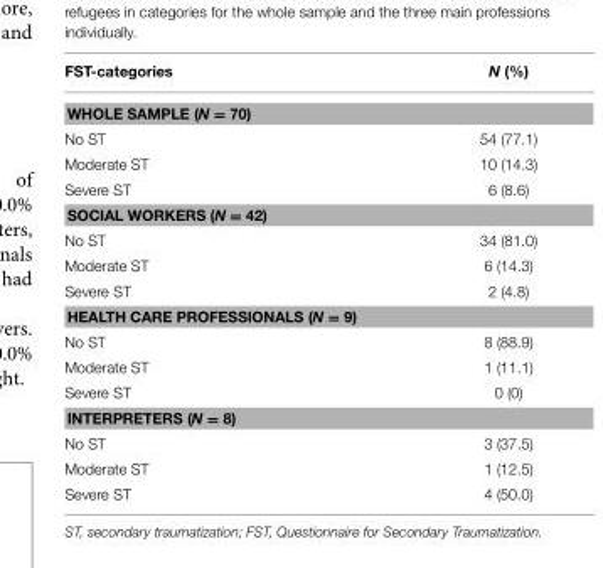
<table><thead><tr><td>FST-categories</td><td>N (%)</td></tr></thead><tbody><tr><td colspan="2">WHOLE SAMPLE (N = 70)</td></tr><tr><td>No ST</td><td>54 (77.1)</td></tr><tr><td>Moderate ST</td><td>10 (14.3)</td></tr><tr><td>Severe ST</td><td>6 (8.6)</td></tr><tr><td colspan="2">SOCIAL WORKERS (N = 42)</td></tr><tr><td>No ST</td><td>34 (81.0)</td></tr><tr><td>Moderate ST</td><td>6 (14.3)</td></tr><tr><td>Severe ST</td><td>2 (4.8)</td></tr><tr><td colspan="2">HEALTH CARE PROFESSIONALS (N = 9)</td></tr><tr><td>No ST</td><td>8 (88.9)</td></tr><tr><td>Moderate ST</td><td>1 (11.1)</td></tr><tr><td>Severe ST</td><td>0 (0)</td></tr><tr><td colspan="2">INTERPRETERS (N = 8)</td></tr><tr><td>No ST</td><td>3 (37.5)</td></tr><tr><td>Moderate ST</td><td>1 (12.5)</td></tr><tr><td>Severe ST</td><td>4 (50.0)</td></tr></tbody></table>